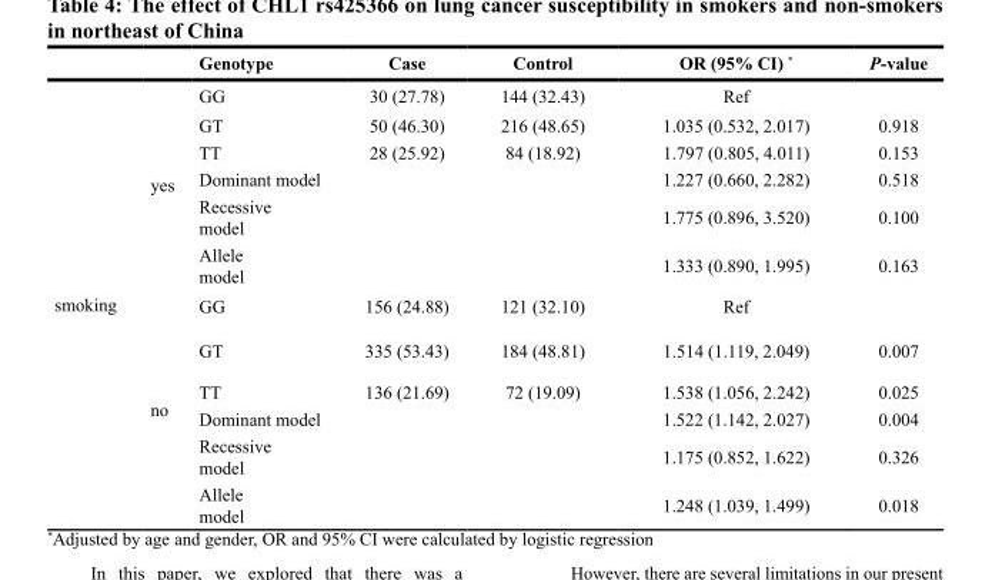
<table><thead><tr><td></td><td></td><td>Genotype</td><td>Case</td><td>Control</td><td>OR (95% CI) *</td><td>P-value</td></tr></thead><tbody><tr><td rowspan="12">smoking</td><td rowspan="6">yes</td><td>GG</td><td>30 (27.78)</td><td>144 (32.43)</td><td>Ref</td><td></td></tr><tr><td>GT</td><td>50 (46.30)</td><td>216 (48.65)</td><td>1.035 (0.532, 2.017)</td><td>0.918</td></tr><tr><td>TT</td><td>28 (25.92)</td><td>84 (18.92)</td><td>1.797 (0.805, 4.011)</td><td>0.153</td></tr><tr><td>Dominant model</td><td></td><td></td><td>1.227 (0.660, 2.282)</td><td>0.518</td></tr><tr><td>Recessive model</td><td></td><td></td><td>1.775 (0.896, 3.520)</td><td>0.100</td></tr><tr><td>Allele model</td><td></td><td></td><td>1.333 (0.890, 1.995)</td><td>0.163</td></tr><tr><td rowspan="6">no</td><td>GG</td><td>156 (24.88)</td><td>121 (32.10)</td><td>Ref</td><td></td></tr><tr><td>GT</td><td>335 (53.43)</td><td>184 (48.81)</td><td>1.514 (1.119, 2.049)</td><td>0.007</td></tr><tr><td>TT</td><td>136 (21.69)</td><td>72 (19.09)</td><td>1.538 (1.056, 2.242)</td><td>0.025</td></tr><tr><td>Dominant model</td><td></td><td></td><td>1.522 (1.142, 2.027)</td><td>0.004</td></tr><tr><td>Recessive model</td><td></td><td></td><td>1.175 (0.852, 1.622)</td><td>0.326</td></tr><tr><td>Allele model</td><td></td><td></td><td>1.248 (1.039, 1.499)</td><td>0.018</td></tr></tbody></table>